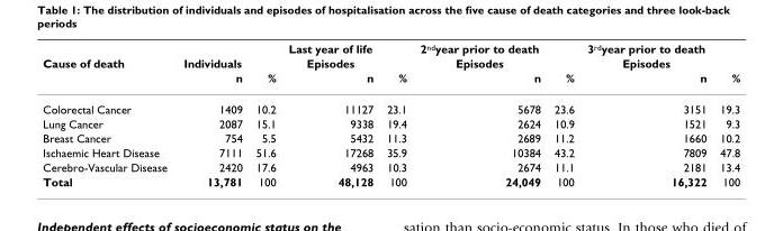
<table><thead><tr><td rowspan="3">Cause of death</td><td rowspan="3">Individuals n</td><td rowspan="3">%</td><td rowspan="3">Last year of life Episodes n</td><td rowspan="3">%</td><td rowspan="3">2ndyear prior to death Episodes n</td><td rowspan="3">%</td><td rowspan="3">3rdyear prior to death Episodes n</td><td rowspan="3">%</td></tr><tr></tr><tr></tr></thead><tbody><tr><td>Colorectal Cancer</td><td>1409</td><td>10.2</td><td>11127</td><td>23.1</td><td>5678</td><td>23.6</td><td>3151</td><td>19.3</td></tr><tr><td>Lung Cancer</td><td>2087</td><td>15.1</td><td>9338</td><td>19.4</td><td>2624</td><td>10.9</td><td>1521</td><td>9.3</td></tr><tr><td>Breast Cancer</td><td>754</td><td>5.5</td><td>5432</td><td>11.3</td><td>2689</td><td>11.2</td><td>1660</td><td>10.2</td></tr><tr><td>Ischaemic Heart Disease</td><td>7111</td><td>51.6</td><td>17268</td><td>35.9</td><td>10384</td><td>43.2</td><td>7809</td><td>47.8</td></tr><tr><td>Cerebro-Vascular Disease</td><td>2420</td><td>17.6</td><td>4963</td><td>10.3</td><td>2674</td><td>11.1</td><td>2181</td><td>13.4</td></tr><tr><td>Total</td><td>13,781</td><td>100</td><td>48,128</td><td>100</td><td>24,049</td><td>100</td><td>16,322</td><td>100</td></tr></tbody></table>